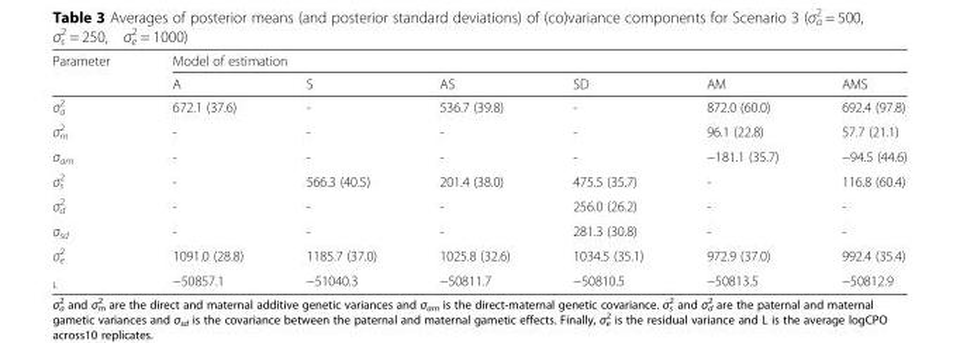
<table><thead><tr><td rowspan="2">Parameter</td><td colspan="6">Model of estimation</td></tr><tr><td>A</td><td>S</td><td>AS</td><td>SD</td><td>AM</td><td>AMS</td></tr></thead><tbody><tr><td>σ<sub>a</sub> <sup>2</sup></td><td>672.1 (37.6)</td><td>-</td><td>536.7 (39.8)</td><td>-</td><td>872.0 (60.0)</td><td>692.4 (97.8)</td></tr><tr><td>σ<sub>m</sub> <sup>2</sup></td><td>-</td><td>-</td><td>-</td><td>-</td><td>96.1 (22.8)</td><td>57.7 (21.1)</td></tr><tr><td>σ<sub>am</sub></td><td>-</td><td>-</td><td>-</td><td>-</td><td>−181.1 (35.7)</td><td>−94.5 (44.6)</td></tr><tr><td>σ<sub>s</sub> <sup>2</sup></td><td>-</td><td>566.3 (40.5)</td><td>201.4 (38.0)</td><td>475.5 (35.7)</td><td>-</td><td>116.8 (60.4)</td></tr><tr><td>σ<sub>d</sub> <sup>2</sup></td><td>-</td><td>-</td><td>-</td><td>256.0 (26.2)</td><td>-</td><td>-</td></tr><tr><td>σ<sub>sd</sub></td><td>-</td><td>-</td><td>-</td><td>281.3 (30.8)</td><td>-</td><td>-</td></tr><tr><td>σ<sub>e</sub> <sup>2</sup></td><td>1091.0 (28.8)</td><td>1185.7 (37.0)</td><td>1025.8 (32.6)</td><td>1034.5 (35.1)</td><td>972.9 (37.0)</td><td>992.4 (35.4)</td></tr><tr><td><sub>L</sub></td><td>−50857.1</td><td>−51040.3</td><td>−50811.7</td><td>−50810.5</td><td>−50813.5</td><td>−50812.9</td></tr></tbody></table>